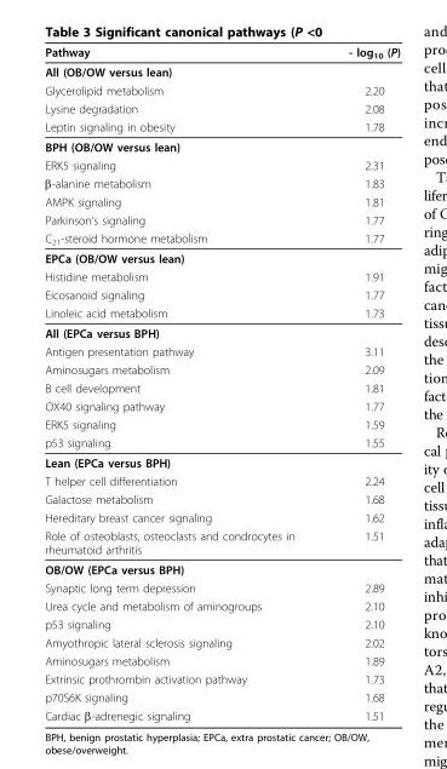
<table><thead><tr><td>Pathway</td><td>- log<sub>10</sub> (P)</td></tr></thead><tbody><tr><td colspan="2">All (OB/OW versus lean)</td></tr><tr><td>Glycerolipid metabolism</td><td>2.20</td></tr><tr><td>Lysine degradation</td><td>2.08</td></tr><tr><td>Leptin signaling in obesity</td><td>1.78</td></tr><tr><td colspan="2">BPH (OB/OW versus lean)</td></tr><tr><td>ERK5 signaling</td><td>2.31</td></tr><tr><td>β-alanine metabolism</td><td>1.83</td></tr><tr><td>AMPK signaling</td><td>1.81</td></tr><tr><td>Parkinson’s signaling</td><td>1.77</td></tr><tr><td>C<sub>21</sub>-steroid hormone metabolism</td><td>1.77</td></tr><tr><td colspan="2">EPCa (OB/OW versus lean)</td></tr><tr><td>Histidine metabolism</td><td>1.91</td></tr><tr><td>Eicosanoid signaling</td><td>1.77</td></tr><tr><td>Linoleic acid metabolism</td><td>1.73</td></tr><tr><td colspan="2">All (EPCa versus BPH)</td></tr><tr><td>Antigen presentation pathway</td><td>3.11</td></tr><tr><td>Aminosugars metabolism</td><td>2.09</td></tr><tr><td>B cell development</td><td>1.81</td></tr><tr><td>OX40 signaling pathway</td><td>1.77</td></tr><tr><td>ERK5 signaling</td><td>1.59</td></tr><tr><td>p53 signaling</td><td>1.55</td></tr><tr><td colspan="2">Lean (EPCa versus BPH)</td></tr><tr><td>T helper cell differentiation</td><td>2.24</td></tr><tr><td>Galactose metabolism</td><td>1.68</td></tr><tr><td>Hereditary breast cancer signaling</td><td>1.62</td></tr><tr><td>Role of osteoblasts, osteoclasts and condrocytes in rheumatoid arthritis</td><td>1.51</td></tr><tr><td colspan="2">OB/OW (EPCa versus BPH)</td></tr><tr><td>Synaptic long term depression</td><td>2.89</td></tr><tr><td>Urea cycle and metabolism of aminogroups</td><td>2.10</td></tr><tr><td>p53 signaling</td><td>2.10</td></tr><tr><td>Amyothropic lateral sclerosis signaling</td><td>2.02</td></tr><tr><td>Aminosugars metabolism</td><td>1.89</td></tr><tr><td>Extrinsic prothrombin activation pathway</td><td>1.73</td></tr><tr><td>p70S6K signaling</td><td>1.68</td></tr><tr><td>Cardiac β-adrenegic signaling</td><td>1.51</td></tr></tbody></table>